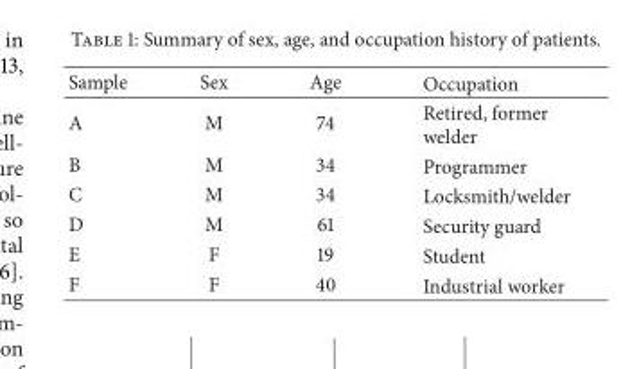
<table><thead><tr><td>Sample</td><td>Sex</td><td>Age</td><td>Occupation</td></tr></thead><tbody><tr><td>A</td><td>M</td><td>74</td><td>Retired, former welder</td></tr><tr><td>B</td><td>M</td><td>34</td><td>Programmer</td></tr><tr><td>C</td><td>M</td><td>34</td><td>Locksmith/welder</td></tr><tr><td>D</td><td>M</td><td>61</td><td>Security guard</td></tr><tr><td>E</td><td>F</td><td>19</td><td>Student</td></tr><tr><td>F</td><td>F</td><td>40</td><td>Industrial worker</td></tr></tbody></table>